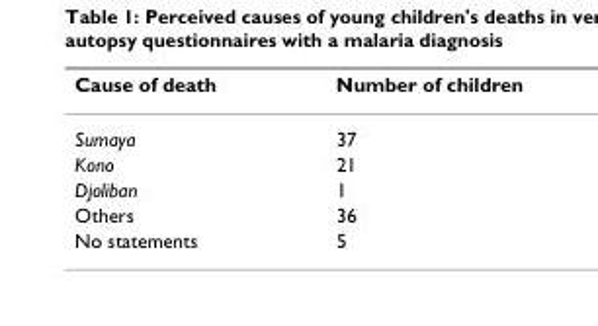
<table><thead><tr><td>Cause of death</td><td>Number of children</td></tr></thead><tbody><tr><td>Sumaya</td><td>37</td></tr><tr><td>Kono</td><td>21</td></tr><tr><td>Djoliban</td><td>1</td></tr><tr><td>Others</td><td>36</td></tr><tr><td>No statements</td><td>5</td></tr></tbody></table>